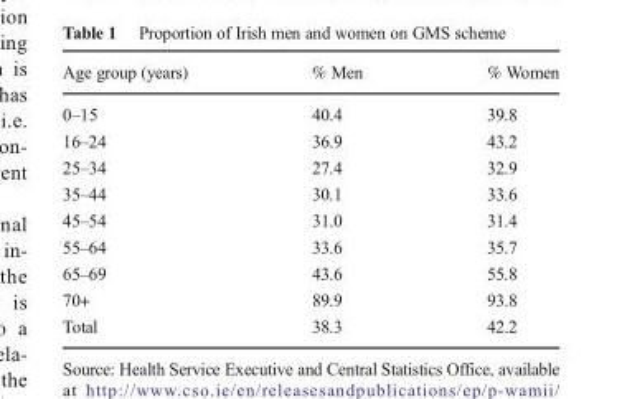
<table><thead><tr><td>Age group (years)</td><td>% Men</td><td>% Women</td></tr></thead><tbody><tr><td>0–15</td><td>40.4</td><td>39.8</td></tr><tr><td>16–24</td><td>36.9</td><td>43.2</td></tr><tr><td>25–34</td><td>27.4</td><td>32.9</td></tr><tr><td>35–44</td><td>30.1</td><td>33.6</td></tr><tr><td>45–54</td><td>31.0</td><td>31.4</td></tr><tr><td>55–64</td><td>33.6</td><td>35.7</td></tr><tr><td>65–69</td><td>43.6</td><td>55.8</td></tr><tr><td>70+</td><td>89.9</td><td>93.8</td></tr><tr><td>Total</td><td>38.3</td><td>42.2</td></tr></tbody></table>